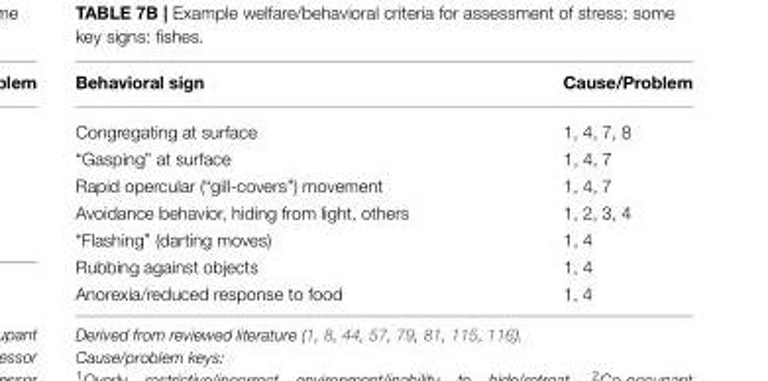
<table><thead><tr><td>Behavioral sign</td><td>Cause/Problem</td></tr></thead><tbody><tr><td>Congregating at surface</td><td>1, 4, 7, 8</td></tr><tr><td>“Gasping” at surface</td><td>1, 4, 7</td></tr><tr><td>Rapid opercular (“gill-covers”) movement</td><td>1, 4, 7</td></tr><tr><td>Avoidance behavior, hiding from light, others</td><td>1, 2, 3, 4</td></tr><tr><td>“Flashing” (darting moves)</td><td>1, 4</td></tr><tr><td>Rubbing against objects</td><td>1, 4</td></tr><tr><td>Anorexia/reduced response to food</td><td>1, 4</td></tr></tbody></table>